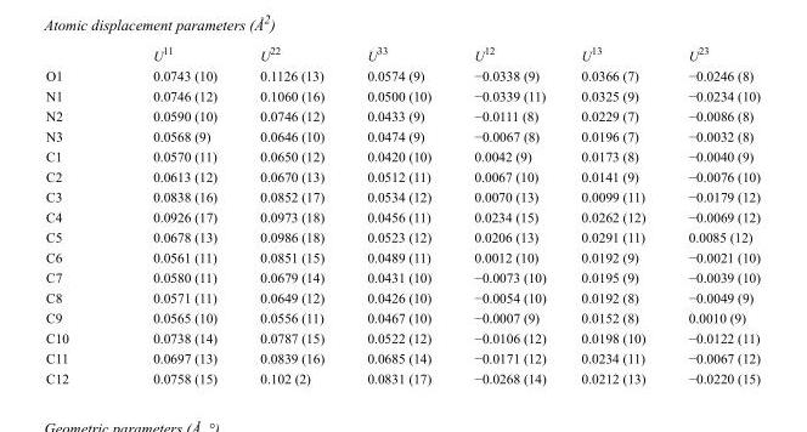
<table><thead><tr><td></td><td>U<sup>11</sup></td><td>U<sup>22</sup></td><td>U<sup>33</sup></td><td>U<sup>12</sup></td><td>U<sup>13</sup></td><td>U<sup>23</sup></td></tr></thead><tbody><tr><td>O1</td><td>0.0743 (10)</td><td>0.1126 (13)</td><td>0.0574 (9)</td><td>−0.0338 (9)</td><td>0.0366 (7)</td><td>−0.0246 (8)</td></tr><tr><td>N1</td><td>0.0746 (12)</td><td>0.1060 (16)</td><td>0.0500 (10)</td><td>−0.0339 (11)</td><td>0.0325 (9)</td><td>−0.0234 (10)</td></tr><tr><td>N2</td><td>0.0590 (10)</td><td>0.0746 (12)</td><td>0.0433 (9)</td><td>−0.0111 (8)</td><td>0.0229 (7)</td><td>−0.0086 (8)</td></tr><tr><td>N3</td><td>0.0568 (9)</td><td>0.0646 (10)</td><td>0.0474 (9)</td><td>−0.0067 (8)</td><td>0.0196 (7)</td><td>−0.0032 (8)</td></tr><tr><td>C1</td><td>0.0570 (11)</td><td>0.0650 (12)</td><td>0.0420 (10)</td><td>0.0042 (9)</td><td>0.0173 (8)</td><td>−0.0040 (9)</td></tr><tr><td>C2</td><td>0.0613 (12)</td><td>0.0670 (13)</td><td>0.0512 (11)</td><td>0.0067 (10)</td><td>0.0141 (9)</td><td>−0.0076 (10)</td></tr><tr><td>C3</td><td>0.0838 (16)</td><td>0.0852 (17)</td><td>0.0534 (12)</td><td>0.0070 (13)</td><td>0.0099 (11)</td><td>−0.0179 (12)</td></tr><tr><td>C4</td><td>0.0926 (17)</td><td>0.0973 (18)</td><td>0.0456 (11)</td><td>0.0234 (15)</td><td>0.0262 (12)</td><td>−0.0069 (12)</td></tr><tr><td>C5</td><td>0.0678 (13)</td><td>0.0986 (18)</td><td>0.0523 (12)</td><td>0.0206 (13)</td><td>0.0291 (11)</td><td>0.0085 (12)</td></tr><tr><td>C6</td><td>0.0561 (11)</td><td>0.0851 (15)</td><td>0.0489 (11)</td><td>0.0012 (10)</td><td>0.0192 (9)</td><td>−0.0021 (10)</td></tr><tr><td>C7</td><td>0.0580 (11)</td><td>0.0679 (14)</td><td>0.0431 (10)</td><td>−0.0073 (10)</td><td>0.0195 (9)</td><td>−0.0039 (10)</td></tr><tr><td>C8</td><td>0.0571 (11)</td><td>0.0649 (12)</td><td>0.0426 (10)</td><td>−0.0054 (10)</td><td>0.0192 (8)</td><td>−0.0049 (9)</td></tr><tr><td>C9</td><td>0.0565 (10)</td><td>0.0556 (11)</td><td>0.0467 (10)</td><td>−0.0007 (9)</td><td>0.0152 (8)</td><td>0.0010 (9)</td></tr><tr><td>C10</td><td>0.0738 (14)</td><td>0.0787 (15)</td><td>0.0522 (12)</td><td>−0.0106 (12)</td><td>0.0198 (10)</td><td>−0.0122 (11)</td></tr><tr><td>C11</td><td>0.0697 (13)</td><td>0.0839 (16)</td><td>0.0685 (14)</td><td>−0.0171 (12)</td><td>0.0234 (11)</td><td>−0.0067 (12)</td></tr><tr><td>C12</td><td>0.0758 (15)</td><td>0.102 (2)</td><td>0.0831 (17)</td><td>−0.0268 (14)</td><td>0.0212 (13)</td><td>−0.0220 (15)</td></tr></tbody></table>